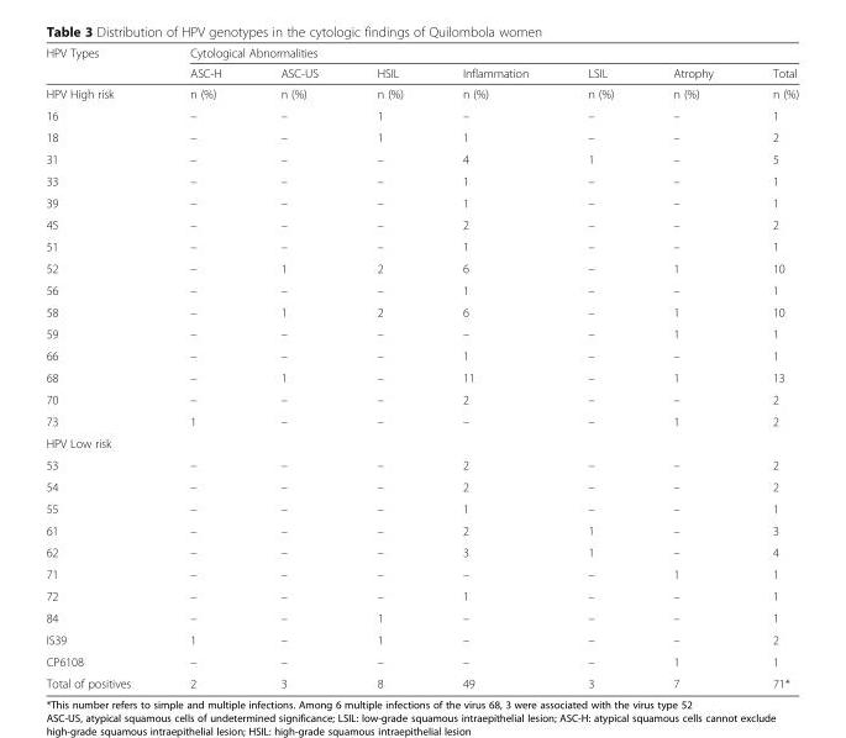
<table><thead><tr><td rowspan="2">HPV Types</td><td colspan="7">Cytological Abnormalities</td></tr><tr><td>ASC-H</td><td>ASC-US</td><td>HSIL</td><td>Inflammation</td><td>LSIL</td><td>Atrophy</td><td>Total</td></tr></thead><tbody><tr><td>HPV High risk</td><td>n (%)</td><td>n (%)</td><td>n (%)</td><td>n (%)</td><td>n (%)</td><td>n (%)</td><td>n (%)</td></tr><tr><td>16</td><td>–</td><td>–</td><td>1</td><td>–</td><td>–</td><td>–</td><td>1</td></tr><tr><td>18</td><td>–</td><td>–</td><td>1</td><td>1</td><td>–</td><td>–</td><td>2</td></tr><tr><td>31</td><td>–</td><td>–</td><td>–</td><td>4</td><td>1</td><td>–</td><td>5</td></tr><tr><td>33</td><td>–</td><td>–</td><td>–</td><td>1</td><td>–</td><td>–</td><td>1</td></tr><tr><td>39</td><td>–</td><td>–</td><td>–</td><td>1</td><td>–</td><td>–</td><td>1</td></tr><tr><td>45</td><td>–</td><td>–</td><td>–</td><td>2</td><td>–</td><td>–</td><td>2</td></tr><tr><td>51</td><td>–</td><td>–</td><td>–</td><td>1</td><td>–</td><td>–</td><td>1</td></tr><tr><td>52</td><td>–</td><td>1</td><td>2</td><td>6</td><td>–</td><td>1</td><td>10</td></tr><tr><td>56</td><td>–</td><td>–</td><td>–</td><td>1</td><td>–</td><td>–</td><td>1</td></tr><tr><td>58</td><td>–</td><td>1</td><td>2</td><td>6</td><td>–</td><td>1</td><td>10</td></tr><tr><td>59</td><td>–</td><td>–</td><td>–</td><td>–</td><td>–</td><td>1</td><td>1</td></tr><tr><td>66</td><td>–</td><td>–</td><td>–</td><td>1</td><td>–</td><td>–</td><td>1</td></tr><tr><td>68</td><td>–</td><td>1</td><td>–</td><td>11</td><td>–</td><td>1</td><td>13</td></tr><tr><td>70</td><td>–</td><td>–</td><td>–</td><td>2</td><td>–</td><td>–</td><td>2</td></tr><tr><td>73</td><td>1</td><td>–</td><td>–</td><td>–</td><td>–</td><td>1</td><td>2</td></tr><tr><td colspan="8">HPV Low risk</td></tr><tr><td>53</td><td>–</td><td>–</td><td>–</td><td>2</td><td>–</td><td>–</td><td>2</td></tr><tr><td>54</td><td>–</td><td>–</td><td>–</td><td>2</td><td>–</td><td>–</td><td>2</td></tr><tr><td>55</td><td>–</td><td>–</td><td>–</td><td>1</td><td>–</td><td>–</td><td>1</td></tr><tr><td>61</td><td>–</td><td>–</td><td>–</td><td>2</td><td>1</td><td>–</td><td>3</td></tr><tr><td>62</td><td>–</td><td>–</td><td>–</td><td>3</td><td>1</td><td>–</td><td>4</td></tr><tr><td>71</td><td>–</td><td>–</td><td>–</td><td>–</td><td>–</td><td>1</td><td>1</td></tr><tr><td>72</td><td>–</td><td>–</td><td>–</td><td>1</td><td>–</td><td>–</td><td>1</td></tr><tr><td>84</td><td>–</td><td>–</td><td>1</td><td>–</td><td>–</td><td>–</td><td>1</td></tr><tr><td>IS39</td><td>1</td><td>–</td><td>1</td><td>–</td><td>–</td><td>–</td><td>2</td></tr><tr><td>CP6108</td><td>–</td><td>–</td><td>–</td><td>–</td><td>–</td><td>1</td><td>1</td></tr><tr><td>Total of positives</td><td>2</td><td>3</td><td>8</td><td>49</td><td>3</td><td>7</td><td>71*</td></tr></tbody></table>